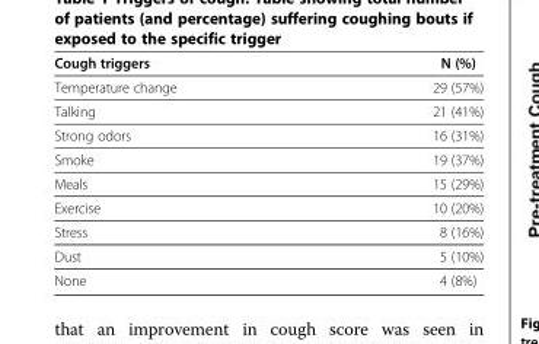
<table><thead><tr><td>Cough triggers</td><td>N (%)</td></tr></thead><tbody><tr><td>Temperature change</td><td>29 (57%)</td></tr><tr><td>Talking</td><td>21 (41%)</td></tr><tr><td>Strong odors</td><td>16 (31%)</td></tr><tr><td>Smoke</td><td>19 (37%)</td></tr><tr><td>Meals</td><td>15 (29%)</td></tr><tr><td>Exercise</td><td>10 (20%)</td></tr><tr><td>Stress</td><td>8 (16%)</td></tr><tr><td>Dust</td><td>5 (10%)</td></tr><tr><td>None</td><td>4 (8%)</td></tr></tbody></table>